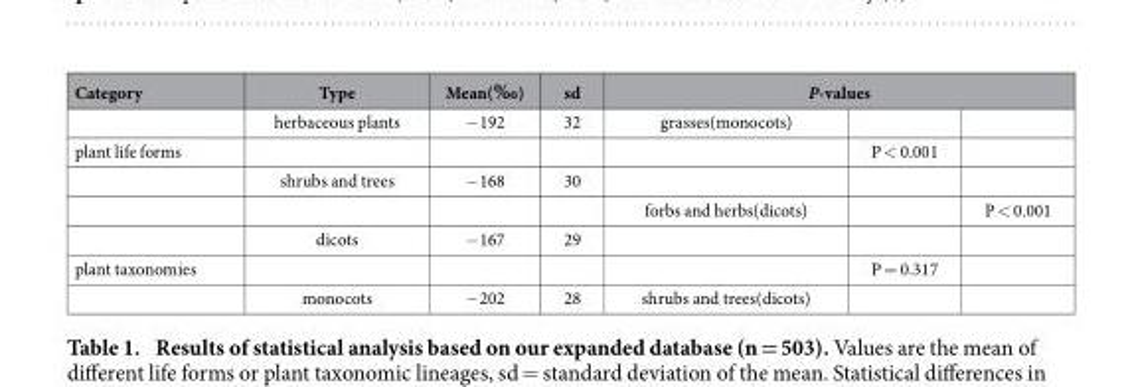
<table><thead><tr><td rowspan="2">Category</td><td rowspan="2">Type herbaceous plants</td><td rowspan="2">Mean(‰) − 192</td><td rowspan="2">sd 32</td><td colspan="3">P-values</td></tr><tr><td>grasses(monocots)</td><td></td><td></td></tr></thead><tbody><tr><td rowspan="4">plant life forms</td><td></td><td></td><td></td><td></td><td>P &lt; 0.001</td><td></td></tr><tr><td>shrubs and trees</td><td>− 168</td><td>30</td><td></td><td></td><td></td></tr><tr><td></td><td></td><td></td><td>forbs and herbs(dicots)</td><td></td><td>P &lt; 0.001</td></tr><tr><td>dicots</td><td>− 167</td><td>29</td><td></td><td></td><td></td></tr><tr><td rowspan="2">plant taxonomies</td><td></td><td></td><td></td><td></td><td>P = 0.317</td><td></td></tr><tr><td>monocots</td><td>− 202</td><td>28</td><td>shrubs and trees(dicots)</td><td></td><td></td></tr></tbody></table>